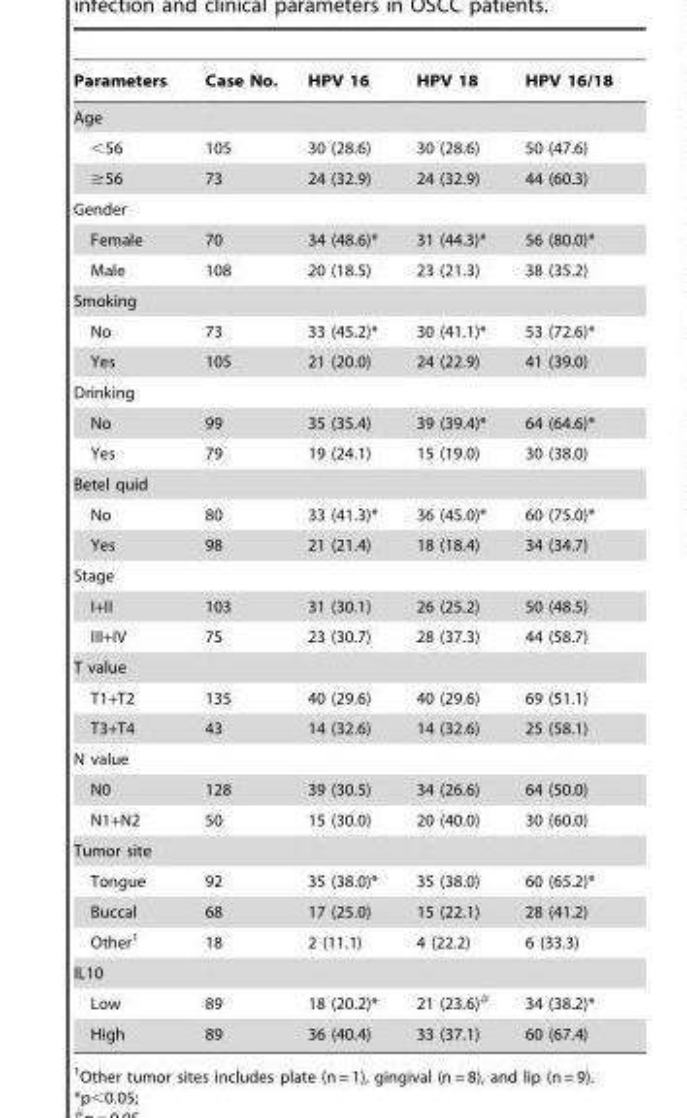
<table><thead><tr><td>Parameters</td><td>Case No.</td><td>HPV 16</td><td>HPV 18</td><td>HPV 16/18</td></tr></thead><tbody><tr><td colspan="5">Age</td></tr><tr><td>&lt;56</td><td>105</td><td>30 (28.6)</td><td>30 (28.6)</td><td>50 (47.6)</td></tr><tr><td>≥56</td><td>73</td><td>24 (32.9)</td><td>24 (32.9)</td><td>44 (60.3)</td></tr><tr><td colspan="5">Gender</td></tr><tr><td>Female</td><td>70</td><td>34 (48.6)*</td><td>31 (44.3)*</td><td>56 (80.0)*</td></tr><tr><td>Male</td><td>108</td><td>20 (18.5)</td><td>23 (21.3)</td><td>38 (35.2)</td></tr><tr><td colspan="5">Smoking</td></tr><tr><td>No</td><td>73</td><td>33 (45.2)*</td><td>30 (41.1)*</td><td>53 (72.6)*</td></tr><tr><td>Yes</td><td>105</td><td>21 (20.0)</td><td>24 (22.9)</td><td>41 (39.0)</td></tr><tr><td colspan="5">Drinking</td></tr><tr><td>No</td><td>99</td><td>35 (35.4)</td><td>39 (39.4)*</td><td>64 (64.6)*</td></tr><tr><td>Yes</td><td>79</td><td>19 (24.1)</td><td>15 (19.0)</td><td>30 (38.0)</td></tr><tr><td colspan="5">Betel quid</td></tr><tr><td>No</td><td>80</td><td>33 (41.3)*</td><td>36 (45.0)*</td><td>60 (75.0)*</td></tr><tr><td>Yes</td><td>98</td><td>21 (21.4)</td><td>18 (18.4)</td><td>34 (34.7)</td></tr><tr><td colspan="5">Stage</td></tr><tr><td>I+II</td><td>103</td><td>31 (30.1)</td><td>26 (25.2)</td><td>50 (48.5)</td></tr><tr><td>III+IV</td><td>75</td><td>23 (30.7)</td><td>28 (37.3)</td><td>44 (58.7)</td></tr><tr><td colspan="5">T value</td></tr><tr><td>T1+T2</td><td>135</td><td>40 (29.6)</td><td>40 (29.6)</td><td>69 (51.1)</td></tr><tr><td>T3+T4</td><td>43</td><td>14 (32.6)</td><td>14 (32.6)</td><td>25 (58.1)</td></tr><tr><td colspan="5">N value</td></tr><tr><td>N0</td><td>128</td><td>39 (30.5)</td><td>34 (26.6)</td><td>64 (50.0)</td></tr><tr><td>N1+N2</td><td>50</td><td>15 (30.0)</td><td>20 (40.0)</td><td>30 (60.0)</td></tr><tr><td colspan="5">Tumor site</td></tr><tr><td>Tongue</td><td>92</td><td>35 (38.0)*</td><td>35 (38.0)</td><td>60 (65.2)*</td></tr><tr><td>Buccal</td><td>68</td><td>17 (25.0)</td><td>15 (22.1)</td><td>28 (41.2)</td></tr><tr><td>Other<sup>1</sup></td><td>18</td><td>2 (11.1)</td><td>4 (22.2)</td><td>6 (33.3)</td></tr><tr><td colspan="5">IL10</td></tr><tr><td>Low</td><td>89</td><td>18 (20.2)*</td><td>21 (23.6)#</td><td>34 (38.2)*</td></tr><tr><td>High</td><td>89</td><td>36 (40.4)</td><td>33 (37.1)</td><td>60 (67.4)</td></tr></tbody></table>